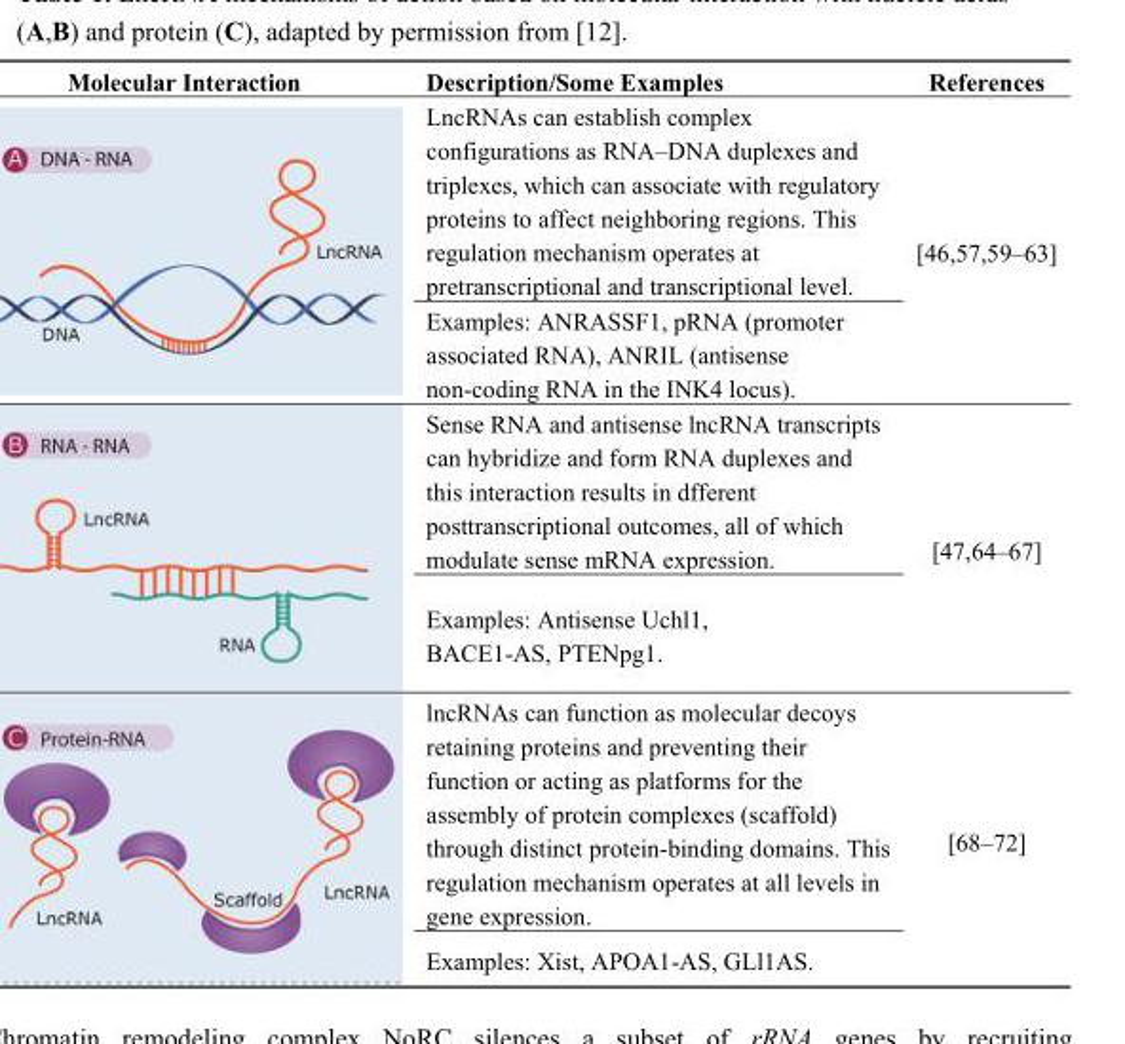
<table><thead><tr><td>Molecular Interaction</td><td>Description/Some Examples</td><td>References</td></tr></thead><tbody><tr><td rowspan="2"></td><td>LncRNAs can establish complex configurations as RNA–DNA duplexes and triplexes, which can associate with regulatory proteins to affect neighboring regions. This regulation mechanism operates at pretranscriptional and transcriptional level.</td><td rowspan="2">[46,57,59–63]</td></tr><tr><td>Examples: ANRASSF1, pRNA (promoter associated RNA), ANRIL (antisense non-coding RNA in the INK4 locus).</td></tr><tr><td rowspan="2"></td><td>Sense RNA and antisense lncRNA transcripts can hybridize and form RNA duplexes and this interaction results in dfferent posttranscriptional outcomes, all of which modulate sense mRNA expression.</td><td rowspan="2">[47,64–67]</td></tr><tr><td>Examples: Antisense Uchl1, BACE1-AS, PTENpg1.</td></tr><tr><td rowspan="2"></td><td>lncRNAs can function as molecular decoys retaining proteins and preventing their function or acting as platforms for the assembly of protein complexes (scaffold) through distinct protein-binding domains. This regulation mechanism operates at all levels in gene expression.</td><td rowspan="2">[68–72]</td></tr><tr><td>Examples: Xist, APOA1-AS, GLl1AS.</td></tr></tbody></table>